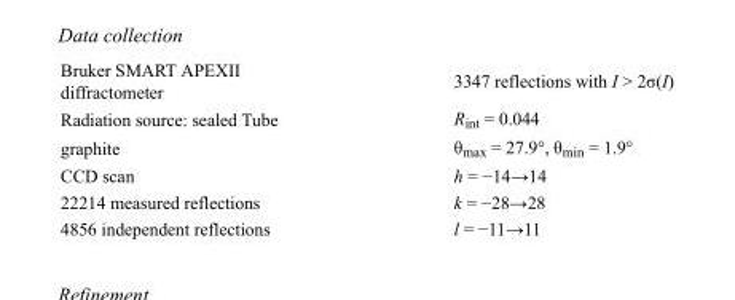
<table><tbody><tr><td>Bruker SMART APEXII diffractometer</td><td>3347 reflections with I &gt; 2σ(I)</td></tr><tr><td>Radiation source: sealed Tube</td><td>R<sub>int</sub> = 0.044</td></tr><tr><td>graphite</td><td>θ<sub>max</sub> = 27.9°, θ<sub>min</sub> = 1.9°</td></tr><tr><td>CCD scan</td><td>h = −14→14</td></tr><tr><td>22214 measured reflections</td><td>k = −28→28</td></tr><tr><td>4856 independent reflections</td><td>l = −11→11</td></tr></tbody></table>